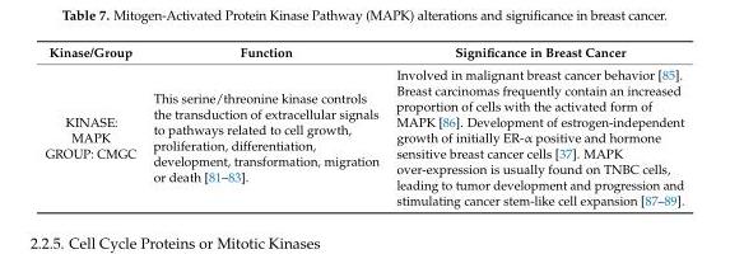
<table><thead><tr><td>Kinase/Group</td><td>Function</td><td>Significance in Breast Cancer</td></tr></thead><tbody><tr><td>KINASE: MAPK GROUP: CMGC</td><td>This serine/threonine kinase controls the transduction of extracellular signals to pathways related to cell growth, proliferation, differentiation, development, transformation, migration or death [81–83].</td><td>Involved in malignant breast cancer behavior [85]. Breast carcinomas frequently contain an increased proportion of cells with the activated form of MAPK [86]. Development of estrogen-independent growth of initially ER-α positive and hormone sensitive breast cancer cells [37]. MAPK over-expression is usually found on TNBC cells, leading to tumor development and progression and stimulating cancer stem-like cell expansion [87–89].</td></tr></tbody></table>